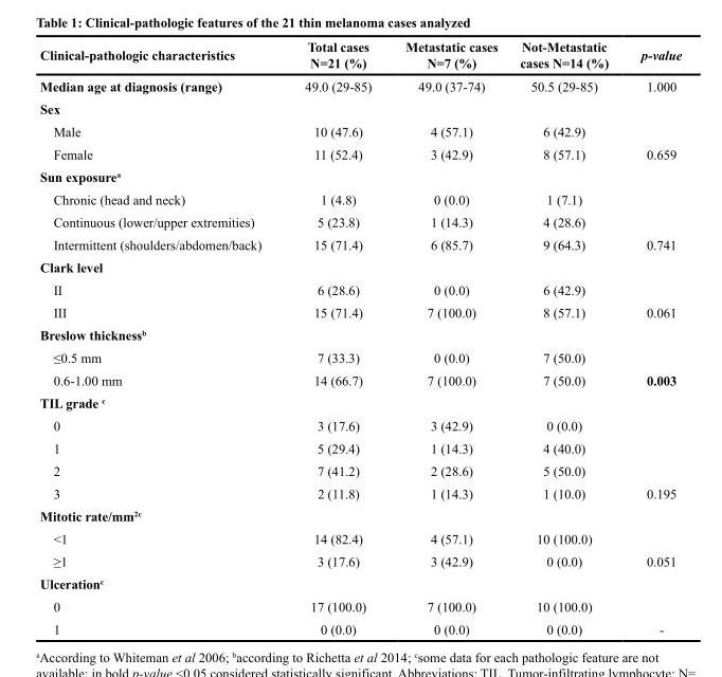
<table><thead><tr><td>Clinical-pathologic characteristics</td><td>Total cases N=21 (%)</td><td>Metastatic cases N=7 (%)</td><td>Not-Metastatic cases N=14 (%)</td><td>p-value</td></tr></thead><tbody><tr><td>Median age at diagnosis (range)</td><td>49.0 (29-85)</td><td>49.0 (37-74)</td><td>50.5 (29-85)</td><td>1.000</td></tr><tr><td colspan="5">Sex</td></tr><tr><td>Male</td><td>10 (47.6)</td><td>4 (57.1)</td><td>6 (42.9)</td><td></td></tr><tr><td>Female</td><td>11 (52.4)</td><td>3 (42.9)</td><td>8 (57.1)</td><td>0.659</td></tr><tr><td colspan="5">Sun exposure<sup>a</sup></td></tr><tr><td>Chronic (head and neck)</td><td>1 (4.8)</td><td>0 (0.0)</td><td>1 (7.1)</td><td></td></tr><tr><td>Continuous (lower/upper extremities)</td><td>5 (23.8)</td><td>1 (14.3)</td><td>4 (28.6)</td><td></td></tr><tr><td>Intermittent (shoulders/abdomen/back)</td><td>15 (71.4)</td><td>6 (85.7)</td><td>9 (64.3)</td><td>0.741</td></tr><tr><td colspan="5">Clark level</td></tr><tr><td>II</td><td>6 (28.6)</td><td>0 (0.0)</td><td>6 (42.9)</td><td></td></tr><tr><td>III</td><td>15 (71.4)</td><td>7 (100.0)</td><td>8 (57.1)</td><td>0.061</td></tr><tr><td colspan="5">Breslow thickness<sup>b</sup></td></tr><tr><td>≤0.5 mm</td><td>7 (33.3)</td><td>0 (0.0)</td><td>7 (50.0)</td><td></td></tr><tr><td>0.6-1.00 mm</td><td>14 (66.7)</td><td>7 (100.0)</td><td>7 (50.0)</td><td>0.003</td></tr><tr><td colspan="5">TIL grade <sup>c</sup></td></tr><tr><td>0</td><td>3 (17.6)</td><td>3 (42.9)</td><td>0 (0.0)</td><td></td></tr><tr><td>1</td><td>5 (29.4)</td><td>1 (14.3)</td><td>4 (40.0)</td><td></td></tr><tr><td>2</td><td>7 (41.2)</td><td>2 (28.6)</td><td>5 (50.0)</td><td></td></tr><tr><td>3</td><td>2 (11.8)</td><td>1 (14.3)</td><td>1 (10.0)</td><td>0.195</td></tr><tr><td colspan="5">Mitotic rate/mm<sup>2c</sup></td></tr><tr><td>&lt;1</td><td>14 (82.4)</td><td>4 (57.1)</td><td>10 (100.0)</td><td></td></tr><tr><td>≥1</td><td>3 (17.6)</td><td>3 (42.9)</td><td>0 (0.0)</td><td>0.051</td></tr><tr><td colspan="5">Ulceration<sup>c</sup></td></tr><tr><td>0</td><td>17 (100.0)</td><td>7 (100.0)</td><td>10 (100.0)</td><td></td></tr><tr><td>1</td><td>0 (0.0)</td><td>0 (0.0)</td><td>0 (0.0)</td><td>-</td></tr></tbody></table>